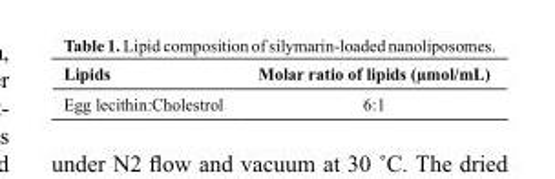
<table><thead><tr><td>Lipids</td><td>Molar ratio of lipids (µmol/mL)</td></tr></thead><tbody><tr><td>Egg lecithin:Cholestrol</td><td>6:1</td></tr></tbody></table>